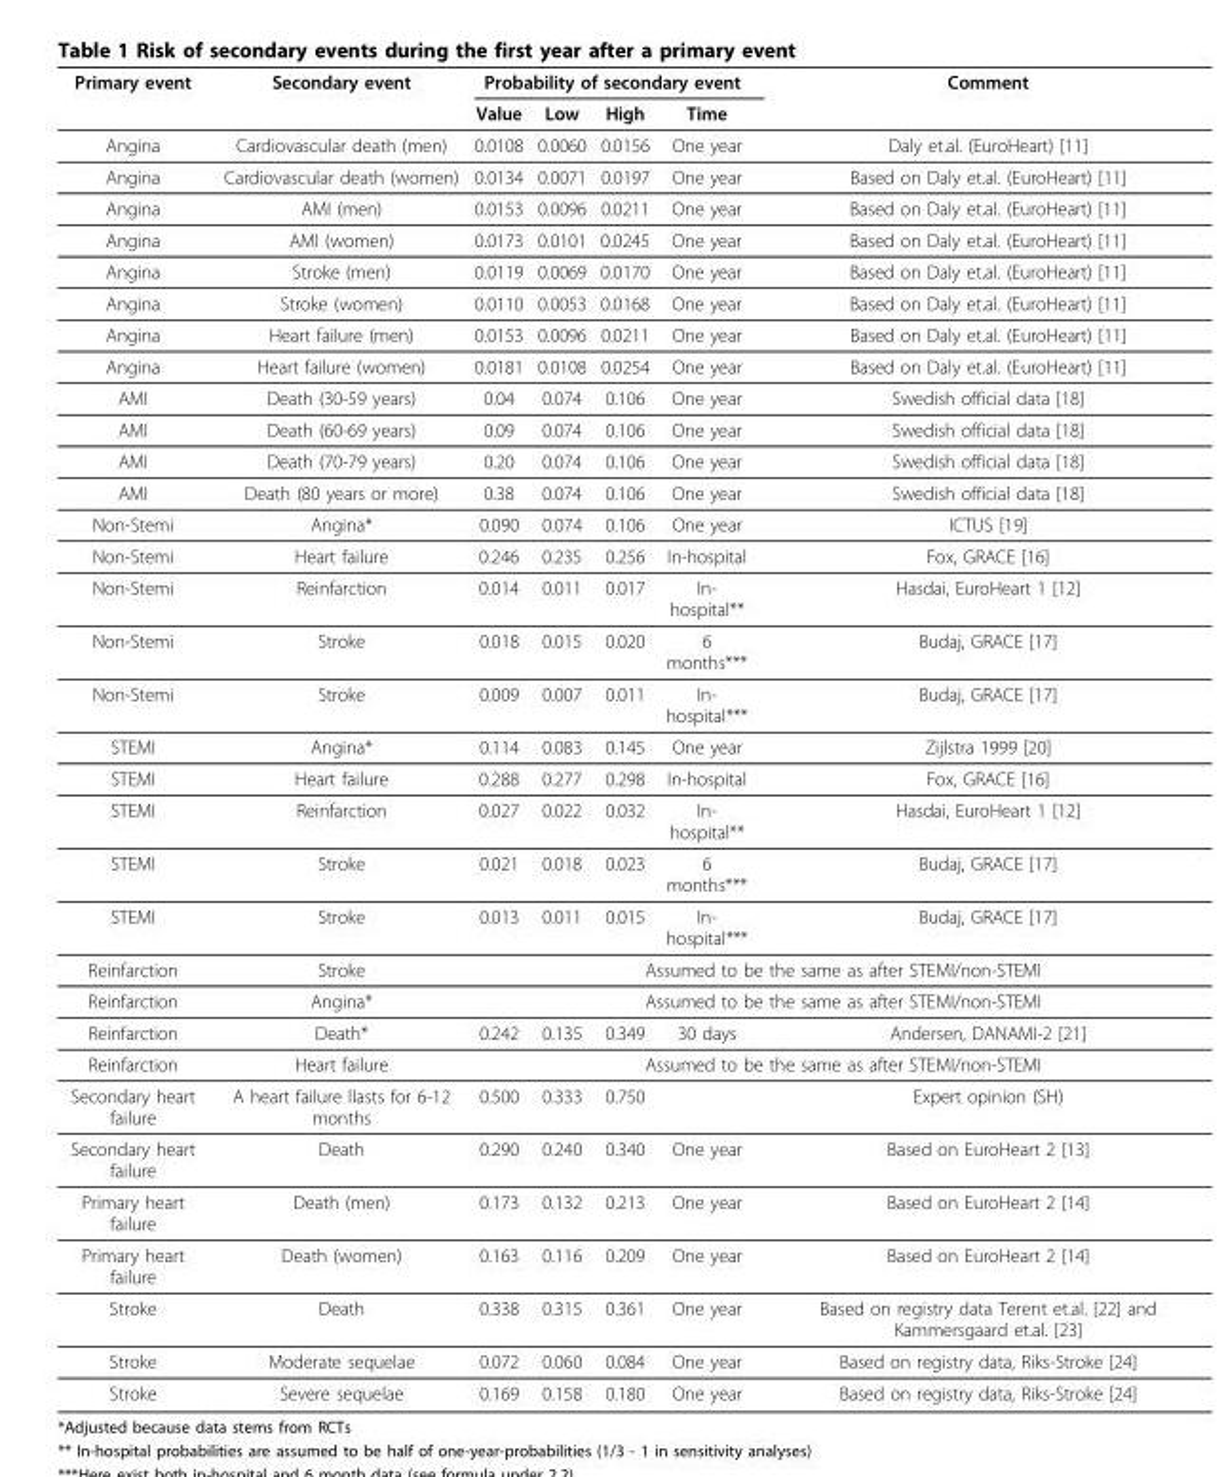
<table><thead><tr><td rowspan="2">Primary event</td><td rowspan="2">Secondary event</td><td colspan="4">Probability of secondary event</td><td rowspan="2">Comment</td></tr><tr><td>Value</td><td>Low</td><td>High</td><td>Time</td></tr></thead><tbody><tr><td>Angina</td><td>Cardiovascular death (men)</td><td>0.0108</td><td>0.0060</td><td>0.0156</td><td>One year</td><td>Daly et.al. (EuroHeart) [11]</td></tr><tr><td>Angina</td><td>Cardiovascular death (women)</td><td>0.0134</td><td>0.0071</td><td>0.0197</td><td>One year</td><td>Based on Daly et.al. (EuroHeart) [11]</td></tr><tr><td>Angina</td><td>AMI (men)</td><td>0.0153</td><td>0.0096</td><td>0.0211</td><td>One year</td><td>Based on Daly et.al. (EuroHeart) [11]</td></tr><tr><td>Angina</td><td>AMI (women)</td><td>0.0173</td><td>0.0101</td><td>0.0245</td><td>One year</td><td>Based on Daly et.al. (EuroHeart) [11]</td></tr><tr><td>Angina</td><td>Stroke (men)</td><td>0.0119</td><td>0.0069</td><td>0.0170</td><td>One year</td><td>Based on Daly et.al. (EuroHeart) [11]</td></tr><tr><td>Angina</td><td>Stroke (women)</td><td>0.0110</td><td>0.0053</td><td>0.0168</td><td>One year</td><td>Based on Daly et.al. (EuroHeart) [11]</td></tr><tr><td>Angina</td><td>Heart failure (men)</td><td>0.0153</td><td>0.0096</td><td>0.0211</td><td>One year</td><td>Based on Daly et.al. (EuroHeart) [11]</td></tr><tr><td>Angina</td><td>Heart failure (women)</td><td>0.0181</td><td>0.0108</td><td>0.0254</td><td>One year</td><td>Based on Daly et.al. (EuroHeart) [11]</td></tr><tr><td>AMI</td><td>Death (30-59 years)</td><td>0.04</td><td>0.074</td><td>0.106</td><td>One year</td><td>Swedish official data [18]</td></tr><tr><td>AMI</td><td>Death (60-69 years)</td><td>0.09</td><td>0.074</td><td>0.106</td><td>One year</td><td>Swedish official data [18]</td></tr><tr><td>AMI</td><td>Death (70-79 years)</td><td>0.20</td><td>0.074</td><td>0.106</td><td>One year</td><td>Swedish official data [18]</td></tr><tr><td>AMI</td><td>Death (80 years or more)</td><td>0.38</td><td>0.074</td><td>0.106</td><td>One year</td><td>Swedish official data [18]</td></tr><tr><td>Non-Stemi</td><td>Angina*</td><td>0.090</td><td>0.074</td><td>0.106</td><td>One year</td><td>ICTUS [19]</td></tr><tr><td>Non-Stemi</td><td>Heart failure</td><td>0.246</td><td>0.235</td><td>0.256</td><td>In-hospital</td><td>Fox, GRACE [16]</td></tr><tr><td>Non-Stemi</td><td>Reinfarction</td><td>0.014</td><td>0.011</td><td>0.017</td><td>In- hospital**</td><td>Hasdai, EuroHeart 1 [12]</td></tr><tr><td>Non-Stemi</td><td>Stroke</td><td>0.018</td><td>0.015</td><td>0.020</td><td>6 months***</td><td>Budaj, GRACE [17]</td></tr><tr><td>Non-Stemi</td><td>Stroke</td><td>0.009</td><td>0.007</td><td>0.011</td><td>In- hospital***</td><td>Budaj, GRACE [17]</td></tr><tr><td>STEMI</td><td>Angina*</td><td>0.114</td><td>0.083</td><td>0.145</td><td>One year</td><td>Zijlstra 1999 [20]</td></tr><tr><td>STEMI</td><td>Heart failure</td><td>0.288</td><td>0.277</td><td>0.298</td><td>In-hospital</td><td>Fox, GRACE [16]</td></tr><tr><td>STEMI</td><td>Reinfarction</td><td>0.027</td><td>0.022</td><td>0.032</td><td>In- hospital**</td><td>Hasdai, EuroHeart 1 [12]</td></tr><tr><td>STEMI</td><td>Stroke</td><td>0.021</td><td>0.018</td><td>0.023</td><td>6 months***</td><td>Budaj, GRACE [17]</td></tr><tr><td>STEMI</td><td>Stroke</td><td>0.013</td><td>0.011</td><td>0.015</td><td>In- hospital***</td><td>Budaj, GRACE [17]</td></tr><tr><td>Reinfarction</td><td>Stroke</td><td colspan="5">Assumed to be the same as after STEMI/non-STEMI</td></tr><tr><td>Reinfarction</td><td>Angina*</td><td colspan="5">Assumed to be the same as after STEMI/non-STEMI</td></tr><tr><td>Reinfarction</td><td>Death*</td><td>0.242</td><td>0.135</td><td>0.349</td><td>30 days</td><td>Andersen, DANAMI-2 [21]</td></tr><tr><td>Reinfarction</td><td>Heart failure</td><td colspan="5">Assumed to be the same as after STEMI/non-STEMI</td></tr><tr><td>Secondary heart failure</td><td>A heart failure llasts for 6-12 months</td><td>0.500</td><td>0.333</td><td>0.750</td><td></td><td>Expert opinion (SH)</td></tr><tr><td>Secondary heart failure</td><td>Death</td><td>0.290</td><td>0.240</td><td>0.340</td><td>One year</td><td>Based on EuroHeart 2 [13]</td></tr><tr><td>Primary heart failure</td><td>Death (men)</td><td>0.173</td><td>0.132</td><td>0.213</td><td>One year</td><td>Based on EuroHeart 2 [14]</td></tr><tr><td>Primary heart failure</td><td>Death (women)</td><td>0.163</td><td>0.116</td><td>0.209</td><td>One year</td><td>Based on EuroHeart 2 [14]</td></tr><tr><td>Stroke</td><td>Death</td><td>0.338</td><td>0.315</td><td>0.361</td><td>One year</td><td>Based on registry data Terent et.al. [22] and Kammersgaard et.al. [23]</td></tr><tr><td>Stroke</td><td>Moderate sequelae</td><td>0.072</td><td>0.060</td><td>0.084</td><td>One year</td><td>Based on registry data, Riks-Stroke [24]</td></tr><tr><td>Stroke</td><td>Severe sequelae</td><td>0.169</td><td>0.158</td><td>0.180</td><td>One year</td><td>Based on registry data, Riks-Stroke [24]</td></tr></tbody></table>